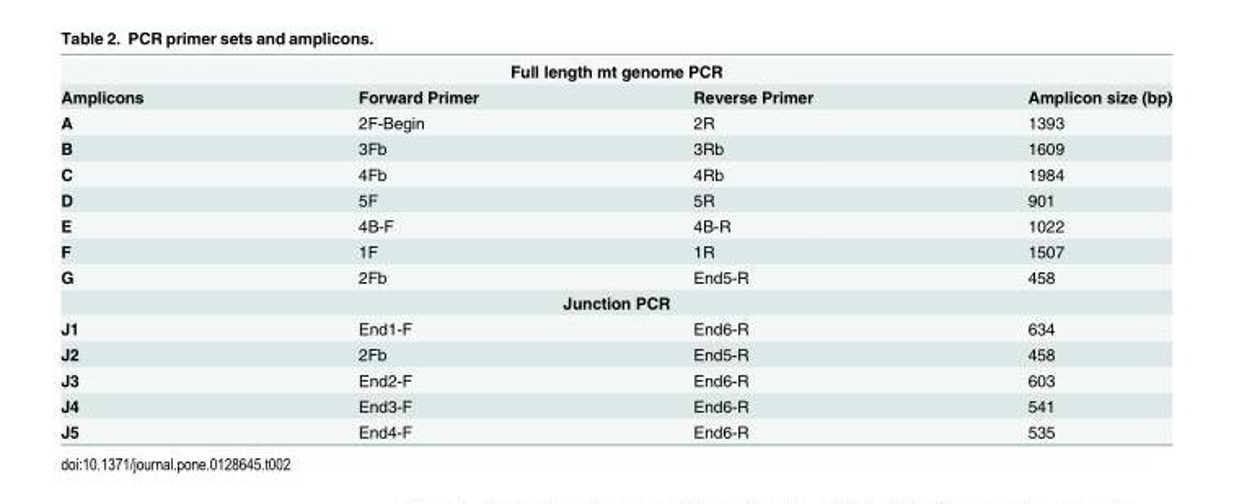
<table><tbody><tr><td colspan="4">Full length mt genome PCR</td></tr><tr><td>Amplicons</td><td>Forward Primer</td><td>Reverse Primer</td><td>Amplicon size (bp)</td></tr><tr><td>A</td><td>2F-Begin</td><td>2R</td><td>1393</td></tr><tr><td>B</td><td>3Fb</td><td>3Rb</td><td>1609</td></tr><tr><td>C</td><td>4Fb</td><td>4Rb</td><td>1984</td></tr><tr><td>D</td><td>5F</td><td>5R</td><td>901</td></tr><tr><td>E</td><td>4B-F</td><td>4B-R</td><td>1022</td></tr><tr><td>F</td><td>1F</td><td>1R</td><td>1507</td></tr><tr><td>G</td><td>2Fb</td><td>End5-R</td><td>458</td></tr><tr><td colspan="4">Junction PCR</td></tr><tr><td>J1</td><td>End1-F</td><td>End6-R</td><td>634</td></tr><tr><td>J2</td><td>2Fb</td><td>End5-R</td><td>458</td></tr><tr><td>J3</td><td>End2-F</td><td>End6-R</td><td>603</td></tr><tr><td>J4</td><td>End3-F</td><td>End6-R</td><td>541</td></tr><tr><td>J5</td><td>End4-F</td><td>End6-R</td><td>535</td></tr></tbody></table>